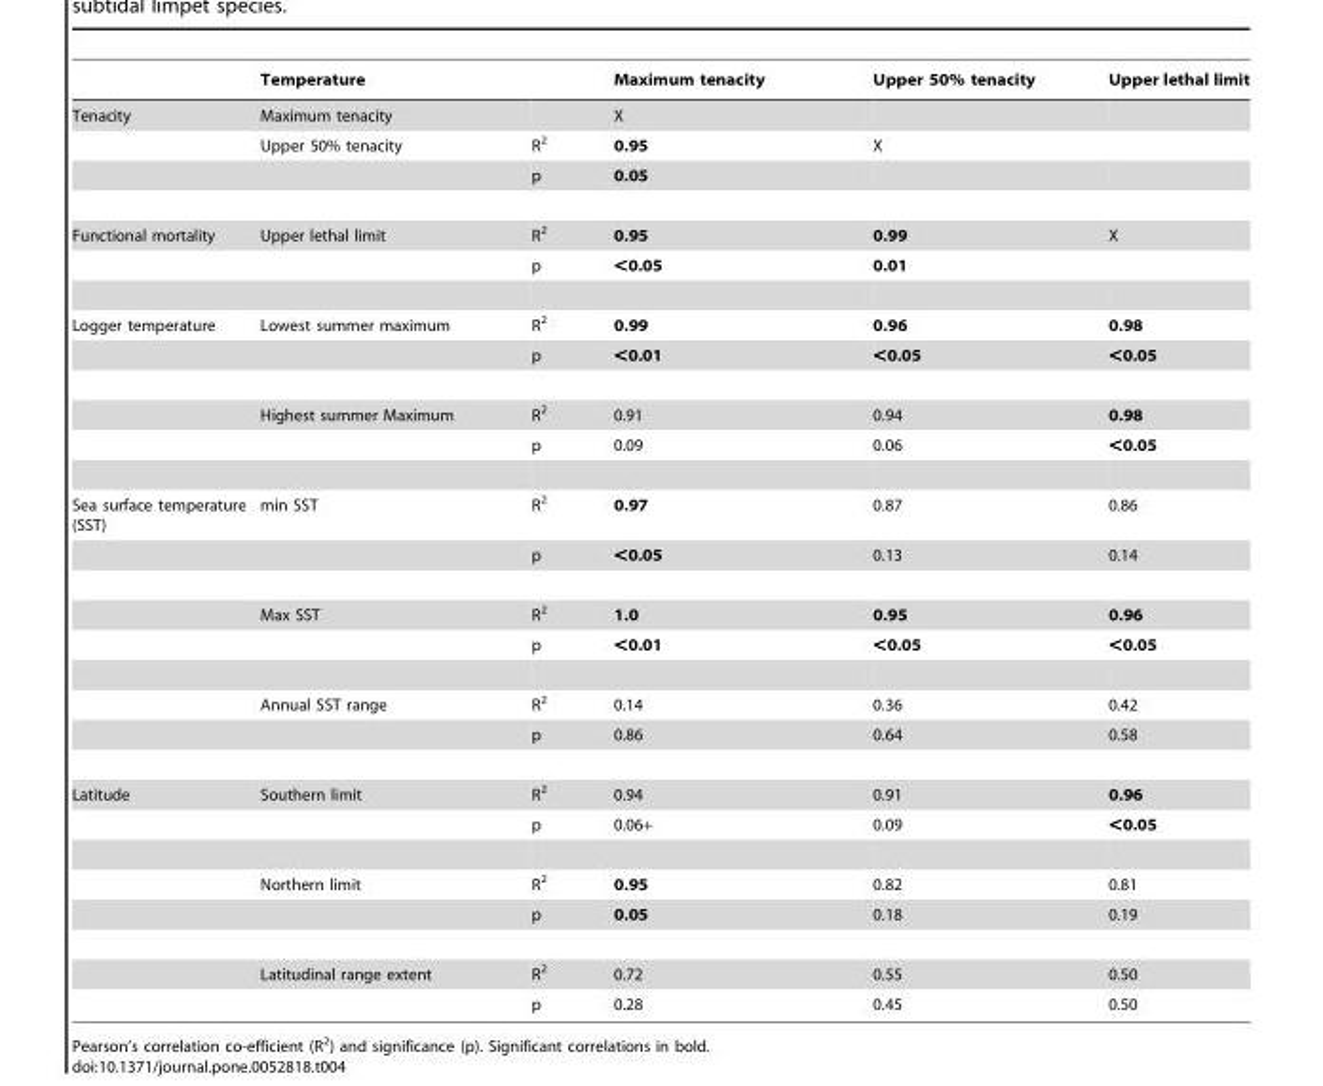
<table><thead><tr><td></td><td>Temperature</td><td></td><td>Maximum tenacity</td><td>Upper 50% tenacity</td><td>Upper lethal limit</td></tr></thead><tbody><tr><td rowspan="3">Tenacity</td><td>Maximum tenacity</td><td></td><td>X</td><td></td><td></td></tr><tr><td>Upper 50% tenacity</td><td>R<sup>2</sup></td><td>0.95</td><td>X</td><td></td></tr><tr><td></td><td>p</td><td>0.05</td><td></td><td></td></tr><tr><td rowspan="2">Functional mortality</td><td>Upper lethal limit</td><td>R<sup>2</sup></td><td>0.95</td><td>0.99</td><td>X</td></tr><tr><td></td><td>p</td><td>&lt;0.05</td><td>0.01</td><td></td></tr><tr><td rowspan="4">Logger temperature</td><td>Lowest summer maximum</td><td>R<sup>2</sup></td><td>0.99</td><td>0.96</td><td>0.98</td></tr><tr><td></td><td>p</td><td>&lt;0.01</td><td>&lt;0.05</td><td>&lt;0.05</td></tr><tr><td>Highest summer Maximum</td><td>R<sup>2</sup></td><td>0.91</td><td>0.94</td><td>0.98</td></tr><tr><td></td><td>p</td><td>0.09</td><td>0.06</td><td>&lt;0.05</td></tr><tr><td rowspan="6">Sea surface temperature (SST)</td><td>min SST</td><td>R<sup>2</sup></td><td>0.97</td><td>0.87</td><td>0.86</td></tr><tr><td></td><td>p</td><td>&lt;0.05</td><td>0.13</td><td>0.14</td></tr><tr><td>Max SST</td><td>R<sup>2</sup></td><td>1.0</td><td>0.95</td><td>0.96</td></tr><tr><td></td><td>p</td><td>&lt;0.01</td><td>&lt;0.05</td><td>&lt;0.05</td></tr><tr><td>Annual SST range</td><td>R<sup>2</sup></td><td>0.14</td><td>0.36</td><td>0.42</td></tr><tr><td></td><td>p</td><td>0.86</td><td>0.64</td><td>0.58</td></tr><tr><td rowspan="6">Latitude</td><td>Southern limit</td><td>R<sup>2</sup></td><td>0.94</td><td>0.91</td><td>0.96</td></tr><tr><td></td><td>p</td><td>0.06+</td><td>0.09</td><td>&lt;0.05</td></tr><tr><td>Northern limit</td><td>R<sup>2</sup></td><td>0.95</td><td>0.82</td><td>0.81</td></tr><tr><td></td><td>p</td><td>0.05</td><td>0.18</td><td>0.19</td></tr><tr><td>Latitudinal range extent</td><td>R<sup>2</sup></td><td>0.72</td><td>0.55</td><td>0.50</td></tr><tr><td></td><td>p</td><td>0.28</td><td>0.45</td><td>0.50</td></tr></tbody></table>